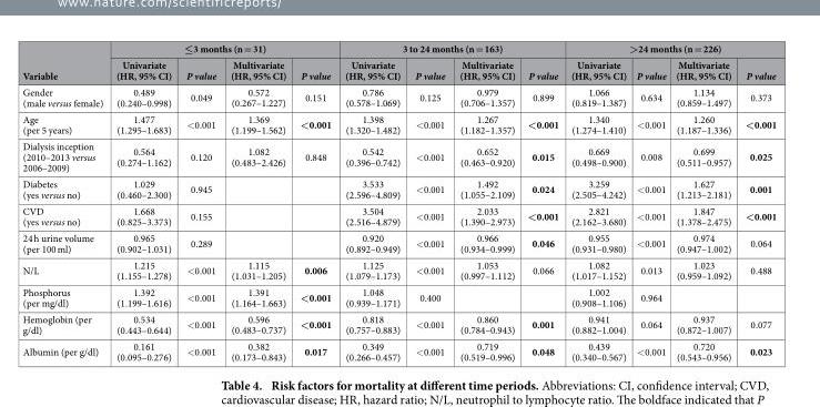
<table><thead><tr><td rowspan="2">Variable</td><td colspan="4">≤3 months (n = 31)</td><td colspan="4">3 to 24 months (n = 163)</td><td colspan="4">&gt;24 months (n = 226)</td></tr><tr><td>Univariate (HR, 95% CI)</td><td>P value</td><td>Multivariate (HR, 95% CI)</td><td>P value</td><td>Univariate (HR, 95% CI)</td><td>P value</td><td>Multivariate (HR, 95% CI)</td><td>P value</td><td>Univariate (HR, 95% CI)</td><td>P value</td><td>Multivariate (HR, 95% CI)</td><td>P value</td></tr></thead><tbody><tr><td>Gender (male versus female)</td><td>0.489 (0.240–0.998)</td><td>0.049</td><td>0.572 (0.267–1.227)</td><td>0.151</td><td>0.786 (0.578–1.069)</td><td>0.125</td><td>0.979 (0.706–1.357)</td><td>0.899</td><td>1.066 (0.819–1.387)</td><td>0.634</td><td>1.134 (0.859–1.497)</td><td>0.373</td></tr><tr><td>Age (per 5 years)</td><td>1.477 (1.295–1.683)</td><td>&lt; 0.001</td><td>1.369 (1.199–1.562)</td><td>&lt;0.001</td><td>1.398 (1.320–1.482)</td><td>&lt; 0.001</td><td>1.267 (1.182–1.357)</td><td>&lt;0.001</td><td>1.340 (1.274–1.410)</td><td>&lt; 0.001</td><td>1.260 (1.187–1.336)</td><td>&lt;0.001</td></tr><tr><td>Dialysis inception (2010–2013 versus 2006–2009)</td><td>0.564 (0.274–1.162)</td><td>0.120</td><td>1.082 (0.483–2.426)</td><td>0.848</td><td>0.542 (0.396–0.742)</td><td>&lt; 0.001</td><td>0.652 (0.463–0.920)</td><td>0.015</td><td>0.669 (0.498–0.900)</td><td>0.008</td><td>0.699 (0.511–0.957)</td><td>0.025</td></tr><tr><td>Diabetes (yes versus no)</td><td>1.029 (0.460–2.300)</td><td>0.945</td><td></td><td></td><td>3.533 (2.596–4.809)</td><td>&lt; 0.001</td><td>1.492 (1.055–2.109)</td><td>0.024</td><td>3.259 (2.505–4.242)</td><td>&lt; 0.001</td><td>1.627 (1.213–2.181)</td><td>0.001</td></tr><tr><td>CVD (yes versus no)</td><td>1.668 (0.825–3.373)</td><td>0.155</td><td></td><td></td><td>3.504 (2.516–4.879)</td><td>&lt; 0.001</td><td>2.033 (1.390–2.973)</td><td>&lt;0.001</td><td>2.821 (2.162–3.680)</td><td>&lt; 0.001</td><td>1.847 (1.378–2.475)</td><td>&lt;0.001</td></tr><tr><td>24 h urine volume (per 100 ml)</td><td>0.965 (0.902–1.031)</td><td>0.289</td><td></td><td></td><td>0.920 (0.892–0.949)</td><td>&lt; 0.001</td><td>0.966 (0.934–0.999)</td><td>0.046</td><td>0.955 (0.931–0.980)</td><td>&lt; 0.001</td><td>0.974 (0.947–1.002)</td><td>0.064</td></tr><tr><td>N/L</td><td>1.215 (1.155–1.278)</td><td>&lt; 0.001</td><td>1.115 (1.031–1.205)</td><td>0.006</td><td>1.125 (1.079–1.173)</td><td>&lt; 0.001</td><td>1.053 (0.997–1.112)</td><td>0.066</td><td>1.082 (1.017–1.152)</td><td>0.013</td><td>1.023 (0.959–1.092)</td><td>0.488</td></tr><tr><td>Phosphorus (per mg/dl)</td><td>1.392 (1.199–1.616)</td><td>&lt; 0.001</td><td>1.391 (1.164–1.663)</td><td>&lt;0.001</td><td>1.048 (0.939–1.171)</td><td>0.400</td><td></td><td></td><td>1.002 (0.908–1.106)</td><td>0.964</td><td></td><td></td></tr><tr><td>Hemoglobin (per g/dl)</td><td>0.534 (0.443–0.644)</td><td>&lt; 0.001</td><td>0.596 (0.483–0.737)</td><td>&lt;0.001</td><td>0.818 (0.757–0.883)</td><td>&lt; 0.001</td><td>0.860 (0.784–0.943)</td><td>0.001</td><td>0.941 (0.882–1.004)</td><td>0.064</td><td>0.937 (0.872–1.007)</td><td>0.077</td></tr><tr><td>Albumin (per g/dl)</td><td>0.161 (0.095–0.276)</td><td>&lt; 0.001</td><td>0.382 (0.173–0.843)</td><td>0.017</td><td>0.349 (0.266–0.457)</td><td>&lt; 0.001</td><td>0.719 (0.519–0.996)</td><td>0.048</td><td>0.439 (0.340–0.567)</td><td>&lt; 0.001</td><td>0.720 (0.543–0.956)</td><td>0.023</td></tr></tbody></table>